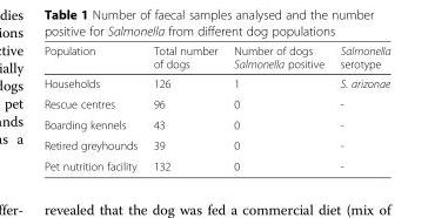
<table><thead><tr><td>Population</td><td>Total number of dogs</td><td>Number of dogs Salmonella positive</td><td>Salmonella serotype</td></tr></thead><tbody><tr><td>Households</td><td>126</td><td>1</td><td>S. arizonae</td></tr><tr><td>Rescue centres</td><td>96</td><td>0</td><td>-</td></tr><tr><td>Boarding kennels</td><td>43</td><td>0</td><td>-</td></tr><tr><td>Retired greyhounds</td><td>39</td><td>0</td><td>-</td></tr><tr><td>Pet nutrition facility</td><td>132</td><td>0</td><td>-</td></tr></tbody></table>